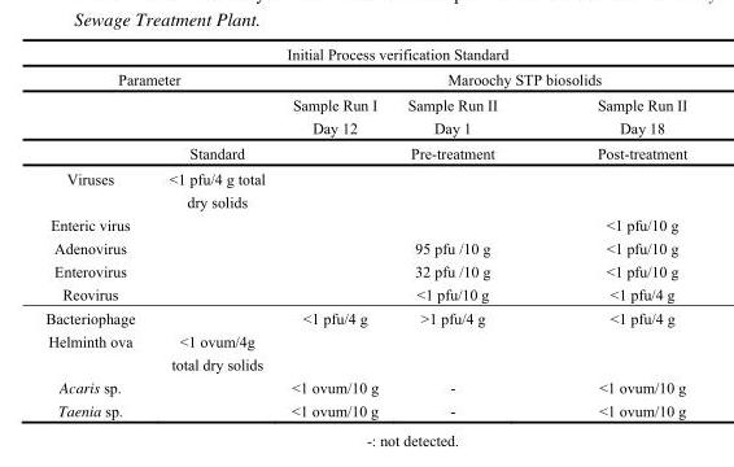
<table><thead><tr><td colspan="5">Initial Process verification Standard</td></tr><tr><td colspan="2">Parameter</td><td colspan="3">Maroochy STP biosolids</td></tr><tr><td rowspan="2"></td><td rowspan="2">Standard</td><td rowspan="2">Sample Run I Day 12</td><td rowspan="2">Sample Run II Day 1 Pre-treatment</td><td rowspan="2">Sample Run II Day 18 Post-treatment</td></tr><tr></tr></thead><tbody><tr><td>Viruses</td><td>&lt;1 pfu/4 g total dry solids</td><td></td><td></td><td></td></tr><tr><td>Enteric virus</td><td></td><td></td><td></td><td>&lt;1 pfu/10 g</td></tr><tr><td>Adenovirus</td><td></td><td></td><td>95 pfu /10 g</td><td>&lt;1 pfu/10 g</td></tr><tr><td>Enterovirus</td><td></td><td></td><td>32 pfu /10 g</td><td>&lt;1 pfu/10 g</td></tr><tr><td>Reovirus</td><td></td><td></td><td>&lt;1 pfu/10 g</td><td>&lt;1 pfu/4 g</td></tr><tr><td>Bacteriophage</td><td></td><td>&lt;1 pfu/4 g</td><td>&gt;1 pfu/4 g</td><td>&lt;1 pfu/4 g</td></tr><tr><td>Helminth ova</td><td>&lt;1 ovum/4g total dry solids</td><td></td><td></td><td></td></tr><tr><td>Acaris sp.</td><td></td><td>&lt;1 ovum/10 g</td><td>-</td><td>&lt;1 ovum/10 g</td></tr><tr><td>Taenia sp.</td><td></td><td>&lt;1 ovum/10 g</td><td>-</td><td>&lt;1 ovum/10 g</td></tr></tbody></table>